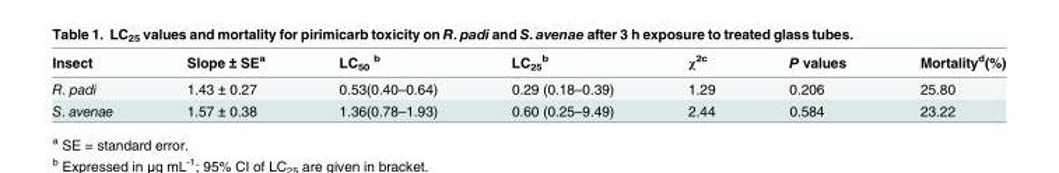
<table><thead><tr><td>Insect</td><td>Slope ± SE<sup>a</sup></td><td>LC<sub>50</sub> <sup>b</sup></td><td>LC<sub>25</sub> <sup>b</sup></td><td>χ<sup>2c</sup></td><td>P values</td><td>Mortality<sup>d</sup>(%)</td></tr></thead><tbody><tr><td>R. padi</td><td>1.43 ± 0.27</td><td>0.53(0.40–0.64)</td><td>0.29 (0.18–0.39)</td><td>1.29</td><td>0.206</td><td>25.80</td></tr><tr><td>S. avenae</td><td>1.57 ± 0.38</td><td>1.36(0.78–1.93)</td><td>0.60 (0.25–9.49)</td><td>2.44</td><td>0.584</td><td>23.22</td></tr></tbody></table>